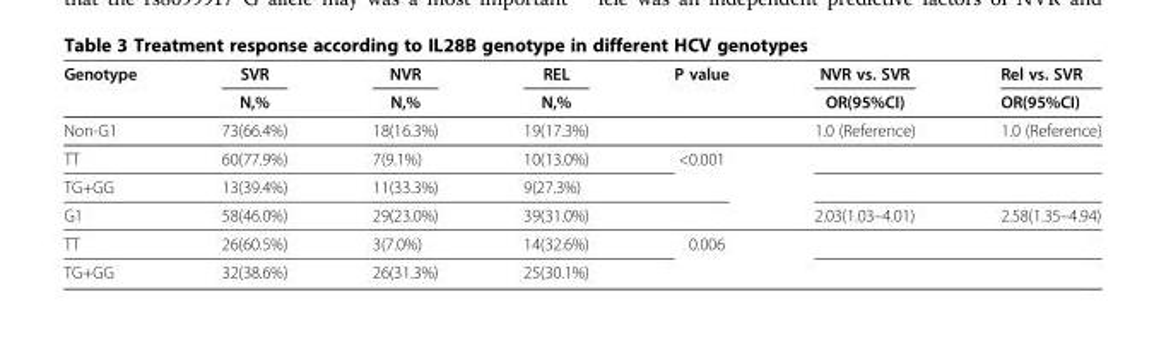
<table><thead><tr><td rowspan="2">Genotype</td><td rowspan="2">SVR N,%</td><td rowspan="2">NVR N,%</td><td rowspan="2">REL N,%</td><td rowspan="2">P value</td><td rowspan="2">NVR vs. SVR OR(95%CI)</td><td rowspan="2">Rel vs. SVR OR(95%CI)</td></tr><tr></tr></thead><tbody><tr><td>Non-G1</td><td>73(66.4%)</td><td>18(16.3%)</td><td>19(17.3%)</td><td></td><td>1.0 (Reference)</td><td>1.0 (Reference)</td></tr><tr><td>TT</td><td>60(77.9%)</td><td>7(9.1%)</td><td>10(13.0%)</td><td>&lt;0.001</td><td></td><td></td></tr><tr><td>TG+GG</td><td>13(39.4%)</td><td>11(33.3%)</td><td>9(27.3%)</td><td></td><td></td><td></td></tr><tr><td>G1</td><td>58(46.0%)</td><td>29(23.0%)</td><td>39(31.0%)</td><td></td><td>2.03(1.03–4.01)</td><td>2.58(1.35–4.94)</td></tr><tr><td>TT</td><td>26(60.5%)</td><td>3(7.0%)</td><td>14(32.6%)</td><td>0.006</td><td></td><td></td></tr><tr><td>TG+GG</td><td>32(38.6%)</td><td>26(31.3%)</td><td>25(30.1%)</td><td></td><td></td><td></td></tr></tbody></table>